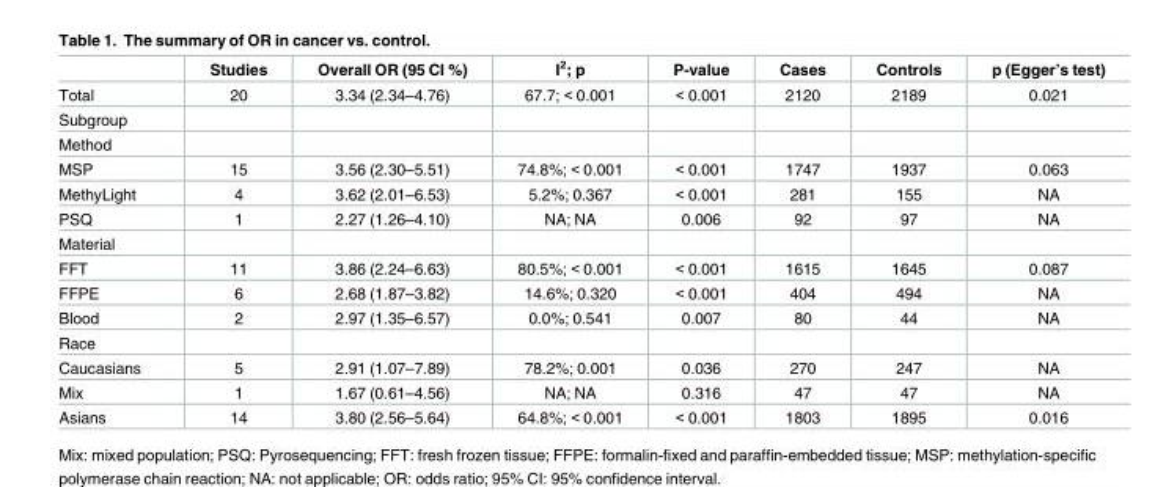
<table><thead><tr><td></td><td>Studies</td><td>Overall OR (95 CI %)</td><td>I<sup>2</sup>; p</td><td>P-value</td><td>Cases</td><td>Controls</td><td>p (Egger’s test)</td></tr></thead><tbody><tr><td>Total</td><td>20</td><td>3.34 (2.34–4.76)</td><td>67.7; &lt; 0.001</td><td>&lt; 0.001</td><td>2120</td><td>2189</td><td>0.021</td></tr><tr><td colspan="8">Subgroup</td></tr><tr><td colspan="8">Method</td></tr><tr><td>MSP</td><td>15</td><td>3.56 (2.30–5.51)</td><td>74.8%; &lt; 0.001</td><td>&lt; 0.001</td><td>1747</td><td>1937</td><td>0.063</td></tr><tr><td>MethyLight</td><td>4</td><td>3.62 (2.01–6.53)</td><td>5.2%; 0.367</td><td>&lt; 0.001</td><td>281</td><td>155</td><td>NA</td></tr><tr><td>PSQ</td><td>1</td><td>2.27 (1.26–4.10)</td><td>NA; NA</td><td>0.006</td><td>92</td><td>97</td><td>NA</td></tr><tr><td colspan="8">Material</td></tr><tr><td>FFT</td><td>11</td><td>3.86 (2.24–6.63)</td><td>80.5%; &lt; 0.001</td><td>&lt; 0.001</td><td>1615</td><td>1645</td><td>0.087</td></tr><tr><td>FFPE</td><td>6</td><td>2.68 (1.87–3.82)</td><td>14.6%; 0.320</td><td>&lt; 0.001</td><td>404</td><td>494</td><td>NA</td></tr><tr><td>Blood</td><td>2</td><td>2.97 (1.35–6.57)</td><td>0.0%; 0.541</td><td>0.007</td><td>80</td><td>44</td><td>NA</td></tr><tr><td colspan="8">Race</td></tr><tr><td>Caucasians</td><td>5</td><td>2.91 (1.07–7.89)</td><td>78.2%; 0.001</td><td>0.036</td><td>270</td><td>247</td><td>NA</td></tr><tr><td>Mix</td><td>1</td><td>1.67 (0.61–4.56)</td><td>NA; NA</td><td>0.316</td><td>47</td><td>47</td><td>NA</td></tr><tr><td>Asians</td><td>14</td><td>3.80 (2.56–5.64)</td><td>64.8%; &lt; 0.001</td><td>&lt; 0.001</td><td>1803</td><td>1895</td><td>0.016</td></tr></tbody></table>